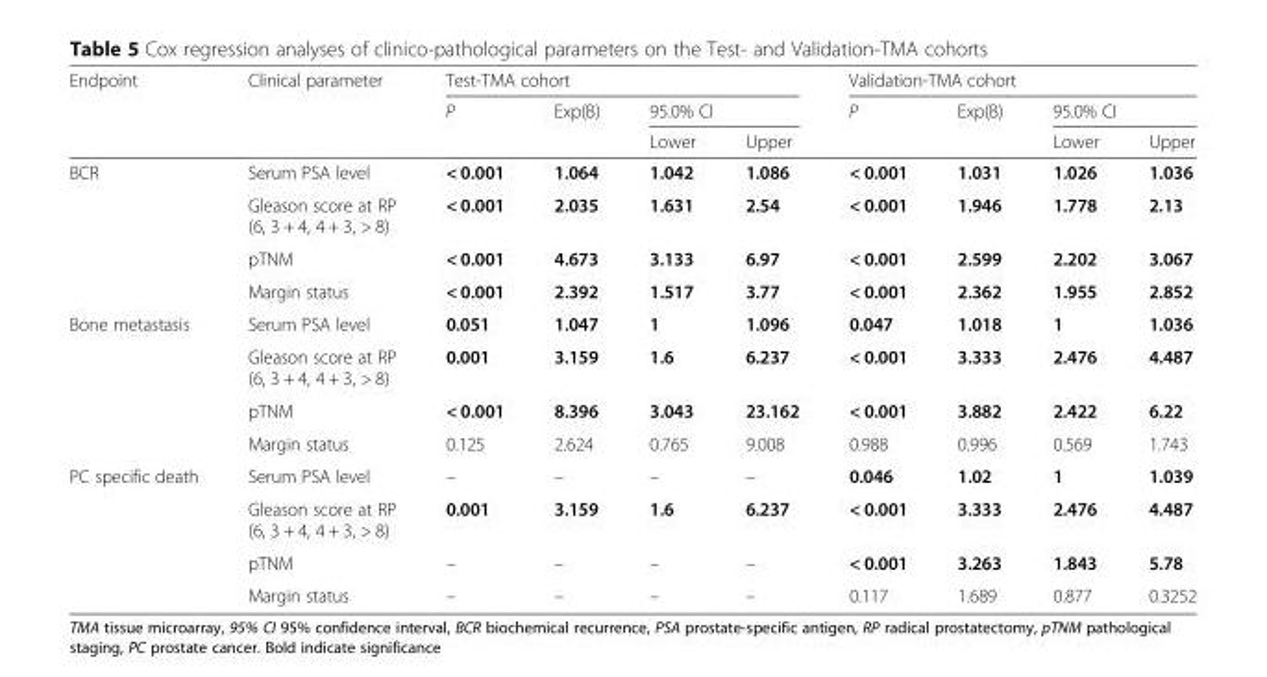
<table><thead><tr><td rowspan="3">Endpoint</td><td rowspan="3">Clinical parameter</td><td colspan="4">Test-TMA cohort</td><td colspan="4">Validation-TMA cohort</td></tr><tr><td rowspan="2">P</td><td rowspan="2">Exp(B)</td><td colspan="2">95.0% CI</td><td rowspan="2">P</td><td rowspan="2">Exp(B)</td><td colspan="2">95.0% CI</td></tr><tr><td>Lower</td><td>Upper</td><td>Lower</td><td>Upper</td></tr></thead><tbody><tr><td rowspan="4">BCR</td><td>Serum PSA level</td><td>&lt; 0.001</td><td>1.064</td><td>1.042</td><td>1.086</td><td>&lt; 0.001</td><td>1.031</td><td>1.026</td><td>1.036</td></tr><tr><td>Gleason score at RP (6, 3 + 4, 4 + 3, &gt; 8)</td><td>&lt; 0.001</td><td>2.035</td><td>1.631</td><td>2.54</td><td>&lt; 0.001</td><td>1.946</td><td>1.778</td><td>2.13</td></tr><tr><td>pTNM</td><td>&lt; 0.001</td><td>4.673</td><td>3.133</td><td>6.97</td><td>&lt; 0.001</td><td>2.599</td><td>2.202</td><td>3.067</td></tr><tr><td>Margin status</td><td>&lt; 0.001</td><td>2.392</td><td>1.517</td><td>3.77</td><td>&lt; 0.001</td><td>2.362</td><td>1.955</td><td>2.852</td></tr><tr><td rowspan="4">Bone metastasis</td><td>Serum PSA level</td><td>0.051</td><td>1.047</td><td>1</td><td>1.096</td><td>0.047</td><td>1.018</td><td>1</td><td>1.036</td></tr><tr><td>Gleason score at RP (6, 3 + 4, 4 + 3, &gt; 8)</td><td>0.001</td><td>3.159</td><td>1.6</td><td>6.237</td><td>&lt; 0.001</td><td>3.333</td><td>2.476</td><td>4.487</td></tr><tr><td>pTNM</td><td>&lt; 0.001</td><td>8.396</td><td>3.043</td><td>23.162</td><td>&lt; 0.001</td><td>3.882</td><td>2.422</td><td>6.22</td></tr><tr><td>Margin status</td><td>0.125</td><td>2.624</td><td>0.765</td><td>9.008</td><td>0.988</td><td>0.996</td><td>0.569</td><td>1.743</td></tr><tr><td rowspan="4">PC specific death</td><td>Serum PSA level</td><td>–</td><td>–</td><td>–</td><td>–</td><td>0.046</td><td>1.02</td><td>1</td><td>1.039</td></tr><tr><td>Gleason score at RP (6, 3 + 4, 4 + 3, &gt; 8)</td><td>0.001</td><td>3.159</td><td>1.6</td><td>6.237</td><td>&lt; 0.001</td><td>3.333</td><td>2.476</td><td>4.487</td></tr><tr><td>pTNM</td><td>–</td><td>–</td><td>–</td><td>–</td><td>&lt; 0.001</td><td>3.263</td><td>1.843</td><td>5.78</td></tr><tr><td>Margin status</td><td>–</td><td>–</td><td>–</td><td>–</td><td>0.117</td><td>1.689</td><td>0.877</td><td>0.3252</td></tr></tbody></table>